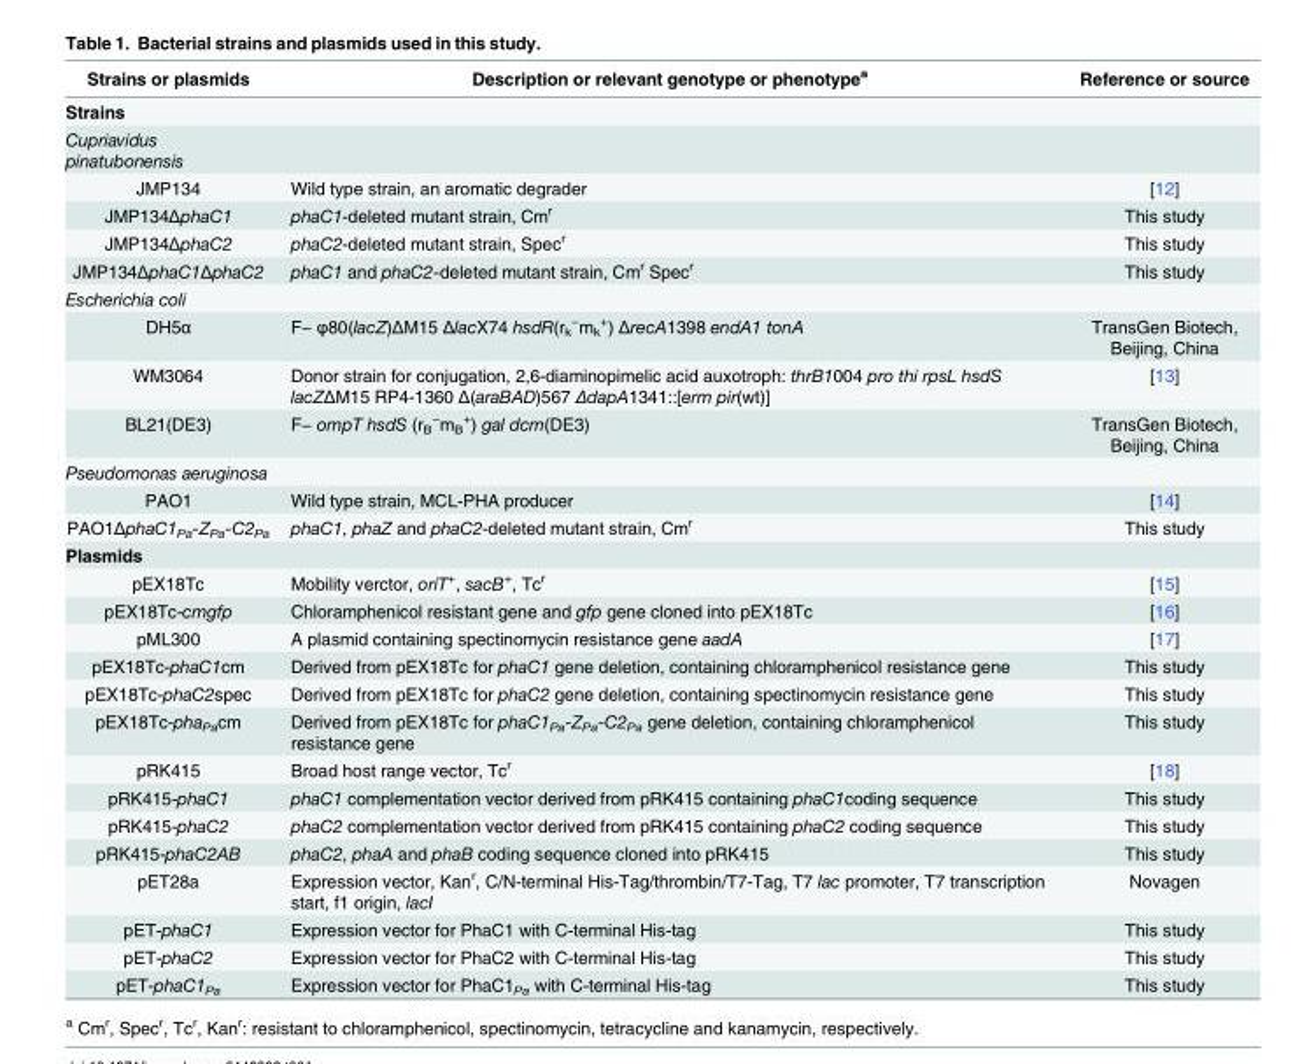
<table><thead><tr><td>Strains or plasmids</td><td>Description or relevant genotype or phenotype<sup>a</sup></td><td>Reference or source</td></tr></thead><tbody><tr><td colspan="3">Strains</td></tr><tr><td colspan="3">Cupriavidus pinatubonensis</td></tr><tr><td>JMP134</td><td>Wild type strain, an aromatic degrader</td><td>[12]</td></tr><tr><td>JMP134ΔphaC1</td><td>phaC1-deleted mutant strain, Cm<sup>r</sup></td><td>This study</td></tr><tr><td>JMP134ΔphaC2</td><td>phaC2-deleted mutant strain, Spec<sup>r</sup></td><td>This study</td></tr><tr><td>JMP134ΔphaC1ΔphaC2</td><td>phaC1 and phaC2-deleted mutant strain, Cm<sup>r</sup> Spec<sup>r</sup></td><td>This study</td></tr><tr><td colspan="3">Escherichia coli</td></tr><tr><td>DH5α</td><td>F− φ80(lacZ)ΔM15 ΔlacX74 hsdR(r<sub>k</sub> <sup>−</sup>m<sub>k</sub> <sup>+</sup>) ΔrecA1398 endA1 tonA</td><td>TransGen Biotech, Beijing, China</td></tr><tr><td>WM3064</td><td>Donor strain for conjugation, 2,6-diaminopimelic acid auxotroph: thrB1004 pro thi rpsL hsdS lacZΔM15 RP4-1360 Δ(araBAD)567 ΔdapA1341::[erm pir(wt)]</td><td>[13]</td></tr><tr><td>BL21(DE3)</td><td>F− ompT hsdS (r<sub>B</sub> <sup>−</sup>m<sub>B</sub> <sup>+</sup>) gal dcm(DE3)</td><td>TransGen Biotech, Beijing, China</td></tr><tr><td colspan="3">Pseudomonas aeruginosa</td></tr><tr><td>PAO1</td><td>Wild type strain, MCL-PHA producer</td><td>[14]</td></tr><tr><td>PAO1ΔphaC1<sub>Pa</sub>-Z<sub>Pa</sub>-C2<sub>Pa</sub></td><td>phaC1, phaZ and phaC2-deleted mutant strain, Cm<sup>r</sup></td><td>This study</td></tr><tr><td colspan="3">Plasmids</td></tr><tr><td>pEX18Tc</td><td>Mobility verctor, oriT<sup>+</sup>, sacB<sup>+</sup>, Tc<sup>r</sup></td><td>[15]</td></tr><tr><td>pEX18Tc-cmgfp</td><td>Chloramphenicol resistant gene and gfp gene cloned into pEX18Tc</td><td>[16]</td></tr><tr><td>pML300</td><td>A plasmid containing spectinomycin resistance gene aadA</td><td>[17]</td></tr><tr><td>pEX18Tc-phaC1cm</td><td>Derived from pEX18Tc for phaC1 gene deletion, containing chloramphenicol resistance gene</td><td>This study</td></tr><tr><td>pEX18Tc-phaC2spec</td><td>Derived from pEX18Tc for phaC2 gene deletion, containing spectinomycin resistance gene</td><td>This study</td></tr><tr><td>pEX18Tc-pha<sub>Pa</sub>cm</td><td>Derived from pEX18Tc for phaC1<sub>Pa</sub>-Z<sub>Pa</sub>-C2<sub>Pa</sub> gene deletion, containing chloramphenicol resistance gene</td><td>This study</td></tr><tr><td>pRK415</td><td>Broad host range vector, Tc<sup>r</sup></td><td>[18]</td></tr><tr><td>pRK415-phaC1</td><td>phaC1 complementation vector derived from pRK415 containing phaC1coding sequence</td><td>This study</td></tr><tr><td>pRK415-phaC2</td><td>phaC2 complementation vector derived from pRK415 containing phaC2 coding sequence</td><td>This study</td></tr><tr><td>pRK415-phaC2AB</td><td>phaC2, phaA and phaB coding sequence cloned into pRK415</td><td>This study</td></tr><tr><td>pET28a</td><td>Expression vector, Kan<sup>r</sup>, C/N-terminal His-Tag/thrombin/T7-Tag, T7 lac promoter, T7 transcription start, f1 origin, lacI</td><td>Novagen</td></tr><tr><td>pET-phaC1</td><td>Expression vector for PhaC1 with C-terminal His-tag</td><td>This study</td></tr><tr><td>pET-phaC2</td><td>Expression vector for PhaC2 with C-terminal His-tag</td><td>This study</td></tr><tr><td>pET-phaC1<sub>Pa</sub></td><td>Expression vector for PhaC1<sub>Pa</sub> with C-terminal His-tag</td><td>This study</td></tr></tbody></table>